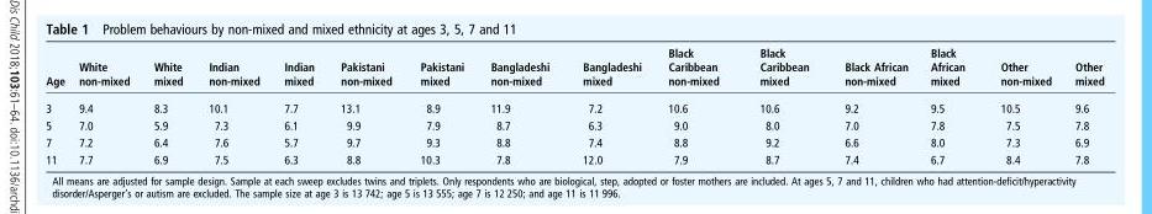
<table><thead><tr><td>Age</td><td>White non-mixed</td><td>White mixed</td><td>Indian non-mixed</td><td>Indian mixed</td><td>Pakistani non-mixed</td><td>Pakistani mixed</td><td>Bangladeshi non-mixed</td><td>Bangladeshi mixed</td><td>Black Caribbean non-mixed</td><td>Black Caribbean mixed</td><td>Black African non-mixed</td><td>Black African mixed</td><td>Other non-mixed</td><td>Other mixed</td></tr></thead><tbody><tr><td>3</td><td>9.4</td><td>8.3</td><td>10.1</td><td>7.7</td><td>13.1</td><td>8.9</td><td>11.9</td><td>7.2</td><td>10.6</td><td>10.6</td><td>9.2</td><td>9.5</td><td>10.5</td><td>9.6</td></tr><tr><td>5</td><td>7.0</td><td>5.9</td><td>7.3</td><td>6.1</td><td>9.9</td><td>7.9</td><td>8.7</td><td>6.3</td><td>9.0</td><td>8.0</td><td>7.0</td><td>7.8</td><td>7.5</td><td>7.8</td></tr><tr><td>7</td><td>7.2</td><td>6.4</td><td>7.6</td><td>5.7</td><td>9.7</td><td>9.3</td><td>8.8</td><td>7.4</td><td>8.8</td><td>9.2</td><td>6.6</td><td>8.0</td><td>7.3</td><td>6.9</td></tr><tr><td>11</td><td>7.7</td><td>6.9</td><td>7.5</td><td>6.3</td><td>8.8</td><td>10.3</td><td>7.8</td><td>12.0</td><td>7.9</td><td>8.7</td><td>7.4</td><td>6.7</td><td>8.4</td><td>7.8</td></tr></tbody></table>